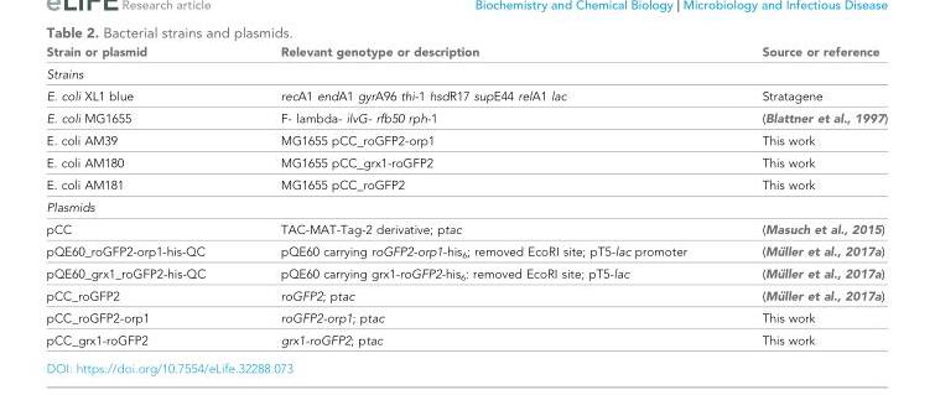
<table><thead><tr><td>Strain or plasmid</td><td>Relevant genotype or description</td><td>Source or reference</td></tr></thead><tbody><tr><td colspan="3">Strains</td></tr><tr><td>E. coli XL1 blue</td><td>recA1 endA1 gyrA96 thi-1 hsdR17 supE44 relA1 lac</td><td>Stratagene</td></tr><tr><td>E. coli MG1655</td><td>F- lambda- ilvG- rfb50 rph-1</td><td>(Blattner et al., 1997)</td></tr><tr><td>E. coli AM39</td><td>MG1655 pCC_roGFP2-orp1</td><td>This work</td></tr><tr><td>E. coli AM180</td><td>MG1655 pCC_grx1-roGFP2</td><td>This work</td></tr><tr><td>E. coli AM181</td><td>MG1655 pCC_roGFP2</td><td>This work</td></tr><tr><td colspan="3">Plasmids</td></tr><tr><td>pCC</td><td>TAC-MAT-Tag-2 derivative; ptac</td><td>(Masuch et al., 2015)</td></tr><tr><td>pQE60_roGFP2-orp1-his-QC</td><td>pQE60 carrying roGFP2-orp1-his<sub>6</sub>; removed EcoRI site; pT5-lac promoter</td><td>(Mu¨ller et al., 2017a)</td></tr><tr><td>pQE60_grx1_roGFP2-his-QC</td><td>pQE60 carrying grx1-roGFP2-his<sub>6</sub>: removed EcoRI site; pT5-lac</td><td>(Mu¨ller et al., 2017a)</td></tr><tr><td>pCC_roGFP2</td><td>roGFP2; ptac</td><td>(Mu¨ller et al., 2017a)</td></tr><tr><td>pCC_roGFP2-orp1</td><td>roGFP2-orp1; ptac</td><td>This work</td></tr><tr><td>pCC_grx1-roGFP2</td><td>grx1-roGFP2; ptac</td><td>This work</td></tr></tbody></table>